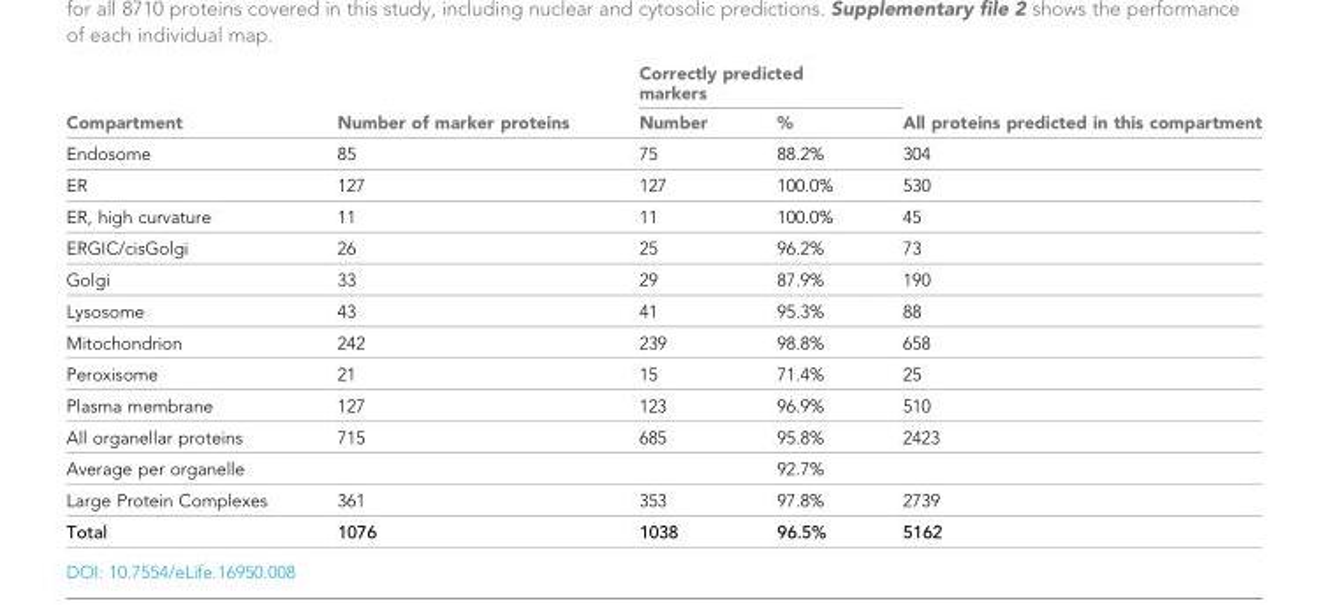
<table><thead><tr><td rowspan="2">Compartment</td><td rowspan="2">Number of marker proteins</td><td colspan="2">Correctly predicted markers</td><td rowspan="2">All proteins predicted in this compartment</td></tr><tr><td>Number</td><td>%</td></tr></thead><tbody><tr><td>Endosome</td><td>85</td><td>75</td><td>88.2%</td><td>304</td></tr><tr><td>ER</td><td>127</td><td>127</td><td>100.0%</td><td>530</td></tr><tr><td>ER, high curvature</td><td>11</td><td>11</td><td>100.0%</td><td>45</td></tr><tr><td>ERGIC/cisGolgi</td><td>26</td><td>25</td><td>96.2%</td><td>73</td></tr><tr><td>Golgi</td><td>33</td><td>29</td><td>87.9%</td><td>190</td></tr><tr><td>Lysosome</td><td>43</td><td>41</td><td>95.3%</td><td>88</td></tr><tr><td>Mitochondrion</td><td>242</td><td>239</td><td>98.8%</td><td>658</td></tr><tr><td>Peroxisome</td><td>21</td><td>15</td><td>71.4%</td><td>25</td></tr><tr><td>Plasma membrane</td><td>127</td><td>123</td><td>96.9%</td><td>510</td></tr><tr><td>All organellar proteins</td><td>715</td><td>685</td><td>95.8%</td><td>2423</td></tr><tr><td>Average per organelle</td><td></td><td></td><td>92.7%</td><td></td></tr><tr><td>Large Protein Complexes</td><td>361</td><td>353</td><td>97.8%</td><td>2739</td></tr><tr><td>Total</td><td>1076</td><td>1038</td><td>96.5%</td><td>5162</td></tr></tbody></table>